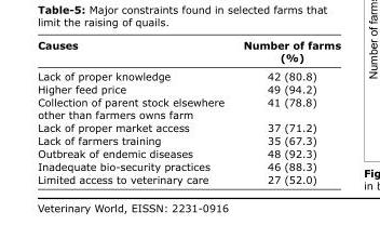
<table><thead><tr><td>Causes</td><td>Number of farms (%)</td></tr></thead><tbody><tr><td>Lack of proper knowledge</td><td>42 (80.8)</td></tr><tr><td>Higher feed price</td><td>49 (94.2)</td></tr><tr><td>Collection of parent stock elsewhere other than farmers owns farm</td><td>41 (78.8)</td></tr><tr><td>Lack of proper market access</td><td>37 (71.2)</td></tr><tr><td>Lack of farmers training</td><td>35 (67.3)</td></tr><tr><td>Outbreak of endemic diseases</td><td>48 (92.3)</td></tr><tr><td>Inadequate bio-security practices</td><td>46 (88.3)</td></tr><tr><td>Limited access to veterinary care</td><td>27 (52.0)</td></tr></tbody></table>